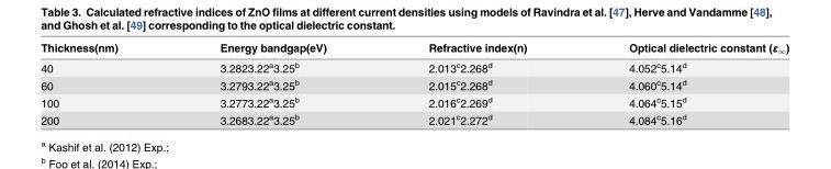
<table><thead><tr><td>Thickness(nm)</td><td>Energy bandgap(eV)</td><td>Refractive index(n)</td><td>Optical dielectric constant (ε<sub>∞</sub>)</td></tr></thead><tbody><tr><td>40</td><td>3.2823.22<sup>a</sup>3.25<sup>b</sup></td><td>2.013<sup>c</sup>2.268<sup>d</sup></td><td>4.052<sup>c</sup>5.14<sup>d</sup></td></tr><tr><td>60</td><td>3.2793.22<sup>a</sup>3.25<sup>b</sup></td><td>2.015<sup>c</sup>2.268<sup>d</sup></td><td>4.060<sup>c</sup>5.14<sup>d</sup></td></tr><tr><td>100</td><td>3.2773.22<sup>a</sup>3.25<sup>b</sup></td><td>2.016<sup>c</sup>2.269<sup>d</sup></td><td>4.064<sup>c</sup>5.15<sup>d</sup></td></tr><tr><td>200</td><td>3.2683.22<sup>a</sup>3.25<sup>b</sup></td><td>2.021<sup>c</sup>2.272<sup>d</sup></td><td>4.084<sup>c</sup>5.16<sup>d</sup></td></tr></tbody></table>